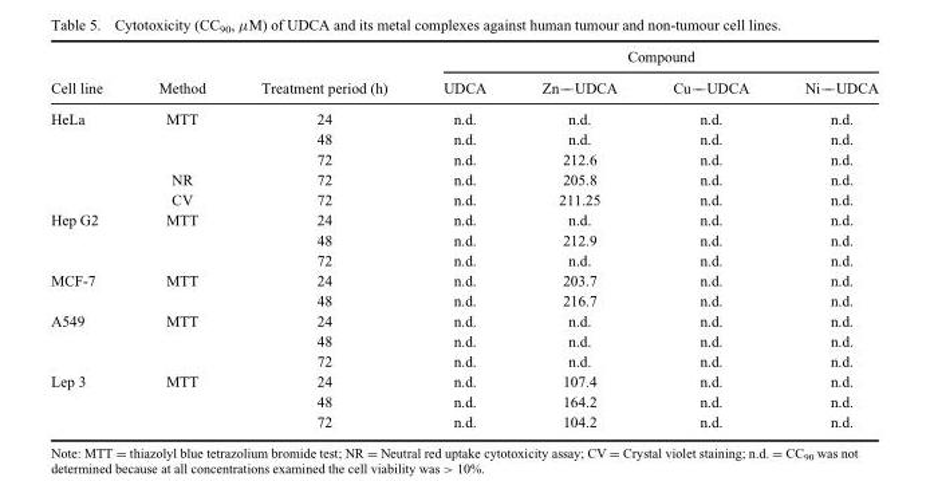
<table><thead><tr><td rowspan="2">Cell line</td><td rowspan="2">Method</td><td rowspan="2">Treatment period (h)</td><td colspan="4">Compound</td></tr><tr><td>UDCA</td><td>Zn��UDCA</td><td>Cu��UDCA</td><td>Ni��UDCA</td></tr></thead><tbody><tr><td rowspan="5">HeLa</td><td>MTT</td><td>24</td><td>n.d.</td><td>n.d.</td><td>n.d.</td><td>n.d.</td></tr><tr><td></td><td>48</td><td>n.d.</td><td>n.d.</td><td>n.d.</td><td>n.d.</td></tr><tr><td></td><td>72</td><td>n.d.</td><td>212.6</td><td>n.d.</td><td>n.d.</td></tr><tr><td>NR</td><td>72</td><td>n.d.</td><td>205.8</td><td>n.d.</td><td>n.d.</td></tr><tr><td>CV</td><td>72</td><td>n.d.</td><td>211.25</td><td>n.d.</td><td>n.d.</td></tr><tr><td rowspan="3">Hep G2</td><td>MTT</td><td>24</td><td>n.d.</td><td>n.d.</td><td>n.d.</td><td>n.d.</td></tr><tr><td></td><td>48</td><td>n.d.</td><td>212.9</td><td>n.d.</td><td>n.d.</td></tr><tr><td></td><td>72</td><td>n.d.</td><td>n.d.</td><td>n.d.</td><td>n.d.</td></tr><tr><td rowspan="2">MCF-7</td><td>MTT</td><td>24</td><td>n.d.</td><td>203.7</td><td>n.d.</td><td>n.d.</td></tr><tr><td></td><td>48</td><td>n.d.</td><td>216.7</td><td>n.d.</td><td>n.d.</td></tr><tr><td rowspan="3">A549</td><td>MTT</td><td>24</td><td>n.d.</td><td>n.d.</td><td>n.d.</td><td>n.d.</td></tr><tr><td></td><td>48</td><td>n.d.</td><td>n.d.</td><td>n.d.</td><td>n.d.</td></tr><tr><td></td><td>72</td><td>n.d.</td><td>n.d.</td><td>n.d.</td><td>n.d.</td></tr><tr><td rowspan="3">Lep 3</td><td>MTT</td><td>24</td><td>n.d.</td><td>107.4</td><td>n.d.</td><td>n.d.</td></tr><tr><td></td><td>48</td><td>n.d.</td><td>164.2</td><td>n.d.</td><td>n.d.</td></tr><tr><td></td><td>72</td><td>n.d.</td><td>104.2</td><td>n.d.</td><td>n.d.</td></tr></tbody></table>